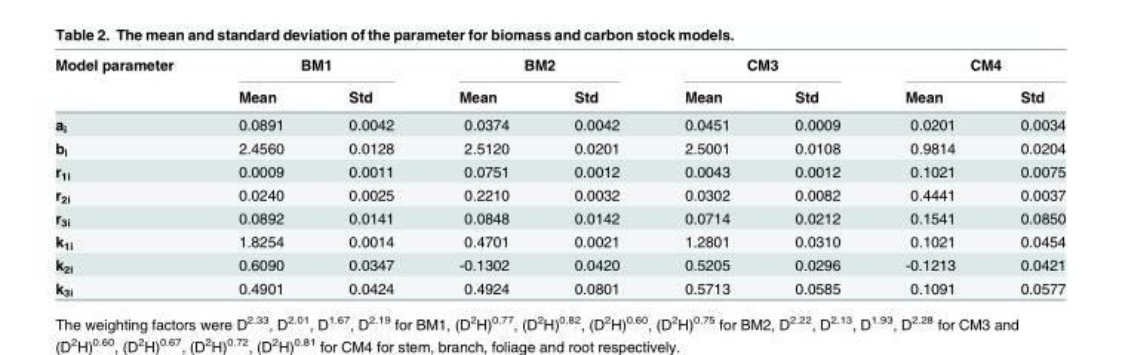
<table><thead><tr><td rowspan="2">Model parameter</td><td colspan="2">BM1</td><td colspan="2">BM2</td><td colspan="2">CM3</td><td colspan="2">CM4</td></tr><tr><td>Mean</td><td>Std</td><td>Mean</td><td>Std</td><td>Mean</td><td>Std</td><td>Mean</td><td>Std</td></tr></thead><tbody><tr><td>a<sub>i</sub></td><td>0.0891</td><td>0.0042</td><td>0.0374</td><td>0.0042</td><td>0.0451</td><td>0.0009</td><td>0.0201</td><td>0.0034</td></tr><tr><td>b<sub>i</sub></td><td>2.4560</td><td>0.0128</td><td>2.5120</td><td>0.0201</td><td>2.5001</td><td>0.0108</td><td>0.9814</td><td>0.0204</td></tr><tr><td>r<sub>1i</sub></td><td>0.0009</td><td>0.0011</td><td>0.0751</td><td>0.0012</td><td>0.0043</td><td>0.0012</td><td>0.1021</td><td>0.0075</td></tr><tr><td>r<sub>2i</sub></td><td>0.0240</td><td>0.0025</td><td>0.2210</td><td>0.0032</td><td>0.0302</td><td>0.0082</td><td>0.4441</td><td>0.0037</td></tr><tr><td>r<sub>3i</sub></td><td>0.0892</td><td>0.0141</td><td>0.0848</td><td>0.0142</td><td>0.0714</td><td>0.0212</td><td>0.1541</td><td>0.0850</td></tr><tr><td>k<sub>1i</sub></td><td>1.8254</td><td>0.0014</td><td>0.4701</td><td>0.0021</td><td>1.2801</td><td>0.0310</td><td>0.1021</td><td>0.0454</td></tr><tr><td>k<sub>2i</sub></td><td>0.6090</td><td>0.0347</td><td>-0.1302</td><td>0.0420</td><td>0.5205</td><td>0.0296</td><td>-0.1213</td><td>0.0421</td></tr><tr><td>k<sub>3i</sub></td><td>0.4901</td><td>0.0424</td><td>0.4924</td><td>0.0801</td><td>0.5713</td><td>0.0585</td><td>0.1091</td><td>0.0577</td></tr></tbody></table>